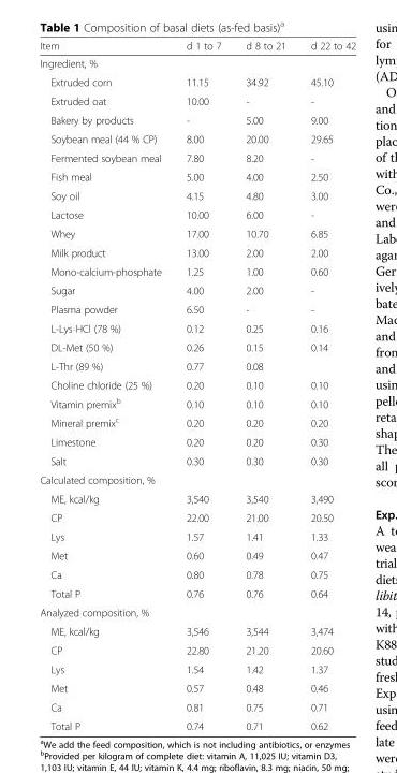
<table><thead><tr><td>Item</td><td>d 1 to 7</td><td>d 8 to 21</td><td>d 22 to 42</td></tr></thead><tbody><tr><td colspan="4">Ingredient, %</td></tr><tr><td>Extruded corn</td><td>11.15</td><td>34.92</td><td>45.10</td></tr><tr><td>Extruded oat</td><td>10.00</td><td>-</td><td>-</td></tr><tr><td>Bakery by products</td><td>-</td><td>5.00</td><td>9.00</td></tr><tr><td>Soybean meal (44 % CP)</td><td>8.00</td><td>20.00</td><td>29.65</td></tr><tr><td>Fermented soybean meal</td><td>7.80</td><td>8.20</td><td>-</td></tr><tr><td>Fish meal</td><td>5.00</td><td>4.00</td><td>2.50</td></tr><tr><td>Soy oil</td><td>4.15</td><td>4.80</td><td>3.00</td></tr><tr><td>Lactose</td><td>10.00</td><td>6.00</td><td>-</td></tr><tr><td>Whey</td><td>17.00</td><td>10.70</td><td>6.85</td></tr><tr><td>Milk product</td><td>13.00</td><td>2.00</td><td>2.00</td></tr><tr><td>Mono-calcium-phosphate</td><td>1.25</td><td>1.00</td><td>0.60</td></tr><tr><td>Sugar</td><td>4.00</td><td>2.00</td><td>-</td></tr><tr><td>Plasma powder</td><td>6.50</td><td>-</td><td>-</td></tr><tr><td>L-Lys⋅HCl (78 %)</td><td>0.12</td><td>0.25</td><td>0.16</td></tr><tr><td>DL-Met (50 %)</td><td>0.26</td><td>0.15</td><td>0.14</td></tr><tr><td>L-Thr (89 %)</td><td>0.77</td><td>0.08</td><td></td></tr><tr><td>Choline chloride (25 %)</td><td>0.20</td><td>0.10</td><td>0.10</td></tr><tr><td>Vitamin premix<sup>b</sup></td><td>0.10</td><td>0.10</td><td>0.10</td></tr><tr><td>Mineral premix<sup>c</sup></td><td>0.20</td><td>0.20</td><td>0.20</td></tr><tr><td>Limestone</td><td>0.20</td><td>0.20</td><td>0.30</td></tr><tr><td>Salt</td><td>0.30</td><td>0.30</td><td>0.30</td></tr><tr><td colspan="4">Calculated composition, %</td></tr><tr><td>ME, kcal/kg</td><td>3,540</td><td>3,540</td><td>3,490</td></tr><tr><td>CP</td><td>22.00</td><td>21.00</td><td>20.50</td></tr><tr><td>Lys</td><td>1.57</td><td>1.41</td><td>1.33</td></tr><tr><td>Met</td><td>0.60</td><td>0.49</td><td>0.47</td></tr><tr><td>Ca</td><td>0.80</td><td>0.78</td><td>0.75</td></tr><tr><td>Total P</td><td>0.76</td><td>0.76</td><td>0.64</td></tr><tr><td colspan="4">Analyzed composition, %</td></tr><tr><td>ME, kcal/kg</td><td>3,546</td><td>3,544</td><td>3,474</td></tr><tr><td>CP</td><td>22.80</td><td>21.20</td><td>20.60</td></tr><tr><td>Lys</td><td>1.54</td><td>1.42</td><td>1.37</td></tr><tr><td>Met</td><td>0.57</td><td>0.48</td><td>0.46</td></tr><tr><td>Ca</td><td>0.81</td><td>0.75</td><td>0.71</td></tr><tr><td>Total P</td><td>0.74</td><td>0.71</td><td>0.62</td></tr></tbody></table>